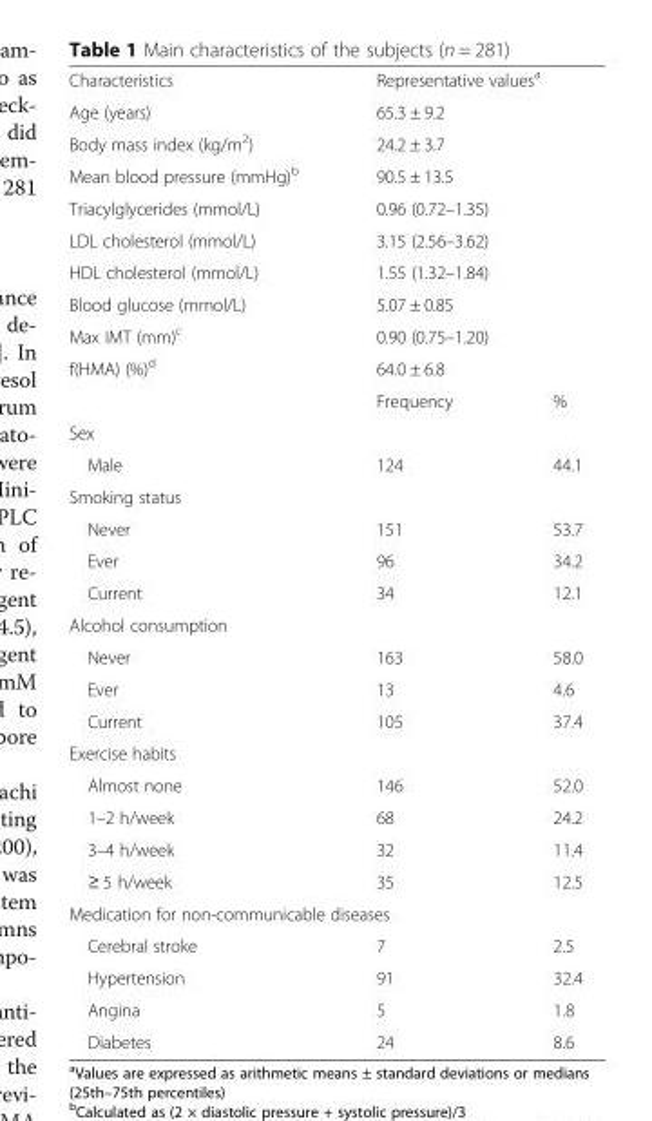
<table><tbody><tr><td>Characteristics</td><td colspan="2">Representative values<sup>a</sup></td></tr><tr><td>Age (years)</td><td colspan="2">65.3 ± 9.2</td></tr><tr><td>Body mass index (kg/m<sup>2</sup>)</td><td colspan="2">24.2 ± 3.7</td></tr><tr><td>Mean blood pressure (mmHg)<sup>b</sup></td><td colspan="2">90.5 ± 13.5</td></tr><tr><td>Triacylglycerides (mmol/L)</td><td colspan="2">0.96 (0.72–1.35)</td></tr><tr><td>LDL cholesterol (mmol/L)</td><td colspan="2">3.15 (2.56–3.62)</td></tr><tr><td>HDL cholesterol (mmol/L)</td><td colspan="2">1.55 (1.32–1.84)</td></tr><tr><td>Blood glucose (mmol/L)</td><td colspan="2">5.07 ± 0.85</td></tr><tr><td>Max IMT (mm)<sup>c</sup></td><td colspan="2">0.90 (0.75–1.20)</td></tr><tr><td rowspan="2">f(HMA) (%)<sup>d</sup></td><td colspan="2">64.0 ± 6.8</td></tr><tr><td>Frequency</td><td>%</td></tr><tr><td colspan="3">Sex</td></tr><tr><td>Male</td><td>124</td><td>44.1</td></tr><tr><td colspan="3">Smoking status</td></tr><tr><td>Never</td><td>151</td><td>53.7</td></tr><tr><td>Ever</td><td>96</td><td>34.2</td></tr><tr><td>Current</td><td>34</td><td>12.1</td></tr><tr><td colspan="3">Alcohol consumption</td></tr><tr><td>Never</td><td>163</td><td>58.0</td></tr><tr><td>Ever</td><td>13</td><td>4.6</td></tr><tr><td>Current</td><td>105</td><td>37.4</td></tr><tr><td colspan="3">Exercise habits</td></tr><tr><td>Almost none</td><td>146</td><td>52.0</td></tr><tr><td>1–2 h/week</td><td>68</td><td>24.2</td></tr><tr><td>3–4 h/week</td><td>32</td><td>11.4</td></tr><tr><td>≥ 5 h/week</td><td>35</td><td>12.5</td></tr><tr><td colspan="3">Medication for non-communicable diseases</td></tr><tr><td>Cerebral stroke</td><td>7</td><td>2.5</td></tr><tr><td>Hypertension</td><td>91</td><td>32.4</td></tr><tr><td>Angina</td><td>5</td><td>1.8</td></tr><tr><td>Diabetes</td><td>24</td><td>8.6</td></tr></tbody></table>